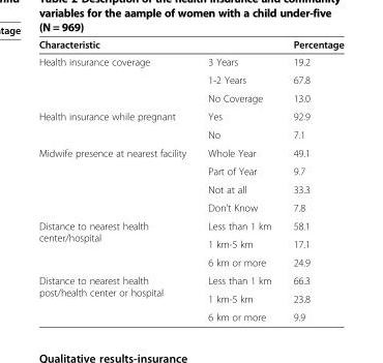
<table><thead><tr><td>Characteristic</td><td></td><td>Percentage</td></tr></thead><tbody><tr><td rowspan="3">Health insurance coverage</td><td>3 Years</td><td>19.2</td></tr><tr><td>1-2 Years</td><td>67.8</td></tr><tr><td>No Coverage</td><td>13.0</td></tr><tr><td rowspan="2">Health insurance while pregnant</td><td>Yes</td><td>92.9</td></tr><tr><td>No</td><td>7.1</td></tr><tr><td rowspan="4">Midwife presence at nearest facility</td><td>Whole Year</td><td>49.1</td></tr><tr><td>Part of Year</td><td>9.7</td></tr><tr><td>Not at all</td><td>33.3</td></tr><tr><td>Don’t Know</td><td>7.8</td></tr><tr><td rowspan="3">Distance to nearest health center/hospital</td><td>Less than 1 km</td><td>58.1</td></tr><tr><td>1 km-5 km</td><td>17.1</td></tr><tr><td>6 km or more</td><td>24.9</td></tr><tr><td rowspan="3">Distance to nearest health post/health center or hospital</td><td>Less than 1 km</td><td>66.3</td></tr><tr><td>1 km-5 km</td><td>23.8</td></tr><tr><td>6 km or more</td><td>9.9</td></tr></tbody></table>